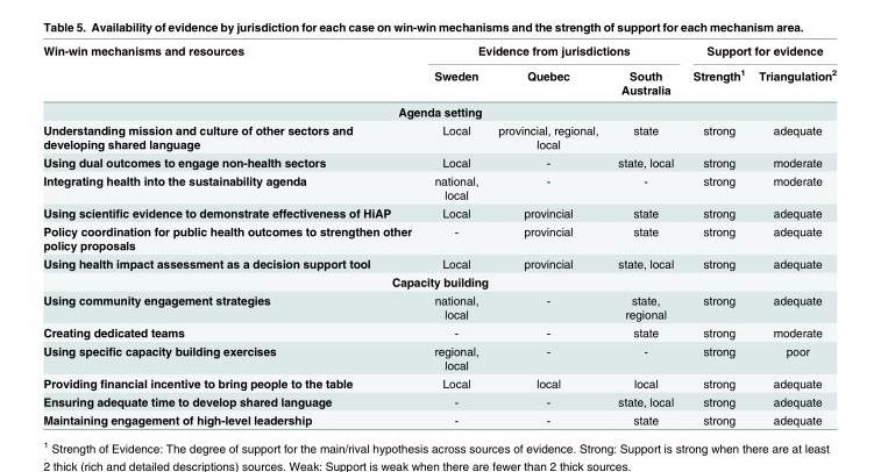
<table><thead><tr><td rowspan="2">Win-win mechanisms and resources</td><td colspan="3">Evidence from jurisdictions</td><td colspan="2">Support for evidence</td></tr><tr><td>Sweden</td><td>Quebec</td><td>South Australia</td><td>Strength<sup>1</sup></td><td>Triangulation<sup>2</sup></td></tr></thead><tbody><tr><td colspan="6">Agenda setting</td></tr><tr><td>Understanding mission and culture of other sectors and developing shared language</td><td>Local</td><td>provincial, regional, local</td><td>state</td><td>strong</td><td>adequate</td></tr><tr><td>Using dual outcomes to engage non-health sectors</td><td>Local</td><td>-</td><td>state, local</td><td>strong</td><td>moderate</td></tr><tr><td>Integrating health into the sustainability agenda</td><td>national, local</td><td>-</td><td>-</td><td>strong</td><td>moderate</td></tr><tr><td>Using scientific evidence to demonstrate effectiveness of HiAP</td><td>Local</td><td>provincial</td><td>state</td><td>strong</td><td>adequate</td></tr><tr><td>Policy coordination for public health outcomes to strengthen other policy proposals</td><td>-</td><td>provincial</td><td>state</td><td>strong</td><td>adequate</td></tr><tr><td>Using health impact assessment as a decision support tool</td><td>Local</td><td>provincial</td><td>state, local</td><td>strong</td><td>adequate</td></tr><tr><td colspan="6">Capacity building</td></tr><tr><td>Using community engagement strategies</td><td>national, local</td><td>-</td><td>state, regional</td><td>strong</td><td>adequate</td></tr><tr><td>Creating dedicated teams</td><td>-</td><td>-</td><td>state</td><td>strong</td><td>moderate</td></tr><tr><td>Using specific capacity building exercises</td><td>regional, local</td><td>-</td><td>-</td><td>strong</td><td>poor</td></tr><tr><td>Providing financial incentive to bring people to the table</td><td>Local</td><td>local</td><td>local</td><td>strong</td><td>adequate</td></tr><tr><td>Ensuring adequate time to develop shared language</td><td>-</td><td>-</td><td>state, local</td><td>strong</td><td>adequate</td></tr><tr><td>Maintaining engagement of high-level leadership</td><td>-</td><td>-</td><td>state</td><td>strong</td><td>adequate</td></tr></tbody></table>